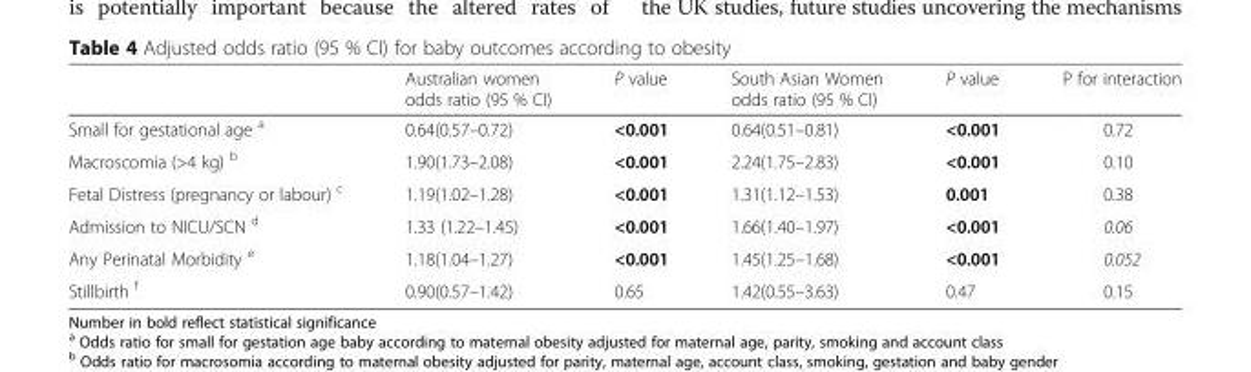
<table><thead><tr><td></td><td>Australian women odds ratio (95 % CI)</td><td>P value</td><td>South Asian Women odds ratio (95 % CI)</td><td>P value</td><td>P for interaction</td></tr></thead><tbody><tr><td>Small for gestational age <sup>a</sup></td><td>0.64(0.57–0.72)</td><td>&lt;0.001</td><td>0.64(0.51–0.81)</td><td>&lt;0.001</td><td>0.72</td></tr><tr><td>Macroscomia (&gt;4 kg) <sup>b</sup></td><td>1.90(1.73–2.08)</td><td>&lt;0.001</td><td>2.24(1.75–2.83)</td><td>&lt;0.001</td><td>0.10</td></tr><tr><td>Fetal Distress (pregnancy or labour) <sup>c</sup></td><td>1.19(1.02–1.28)</td><td>&lt;0.001</td><td>1.31(1.12–1.53)</td><td>0.001</td><td>0.38</td></tr><tr><td>Admission to NICU/SCN <sup>d</sup></td><td>1.33 (1.22–1.45)</td><td>&lt;0.001</td><td>1.66(1.40–1.97)</td><td>&lt;0.001</td><td>0.06</td></tr><tr><td>Any Perinatal Morbidity <sup>e</sup></td><td>1.18(1.04–1.27)</td><td>&lt;0.001</td><td>1.45(1.25–1.68)</td><td>&lt;0.001</td><td>0.052</td></tr><tr><td>Stillbirth <sup>f</sup></td><td>0.90(0.57–1.42)</td><td>0.65</td><td>1.42(0.55–3.63)</td><td>0.47</td><td>0.15</td></tr></tbody></table>